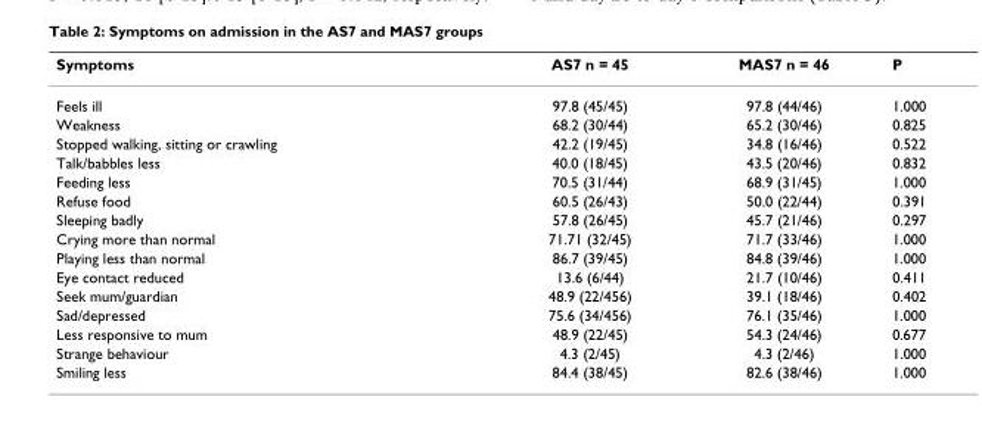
<table><thead><tr><td>Symptoms</td><td>AS7 n = 45</td><td>MAS7 n = 46</td><td>P</td></tr></thead><tbody><tr><td>Feels ill</td><td>97.8 (45/45)</td><td>97.8 (44/46)</td><td>1.000</td></tr><tr><td>Weakness</td><td>68.2 (30/44)</td><td>65.2 (30/46)</td><td>0.825</td></tr><tr><td>Stopped walking, sitting or crawling</td><td>42.2 (19/45)</td><td>34.8 (16/46)</td><td>0.522</td></tr><tr><td>Talk/babbles less</td><td>40.0 (18/45)</td><td>43.5 (20/46)</td><td>0.832</td></tr><tr><td>Feeding less</td><td>70.5 (31/44)</td><td>68.9 (31/45)</td><td>1.000</td></tr><tr><td>Refuse food</td><td>60.5 (26/43)</td><td>50.0 (22/44)</td><td>0.391</td></tr><tr><td>Sleeping badly</td><td>57.8 (26/45)</td><td>45.7 (21/46)</td><td>0.297</td></tr><tr><td>Crying more than normal</td><td>71.71 (32/45)</td><td>71.7 (33/46)</td><td>1.000</td></tr><tr><td>Playing less than normal</td><td>86.7 (39/45)</td><td>84.8 (39/46)</td><td>1.000</td></tr><tr><td>Eye contact reduced</td><td>13.6 (6/44)</td><td>21.7 (10/46)</td><td>0.411</td></tr><tr><td>Seek mum/guardian</td><td>48.9 (22/456)</td><td>39.1 (18/46)</td><td>0.402</td></tr><tr><td>Sad/depressed</td><td>75.6 (34/456)</td><td>76.1 (35/46)</td><td>1.000</td></tr><tr><td>Less responsive to mum</td><td>48.9 (22/45)</td><td>54.3 (24/46)</td><td>0.677</td></tr><tr><td>Strange behaviour</td><td>4.3 (2/45)</td><td>4.3 (2/46)</td><td>1.000</td></tr><tr><td>Smiling less</td><td>84.4 (38/45)</td><td>82.6 (38/46)</td><td>1.000</td></tr></tbody></table>